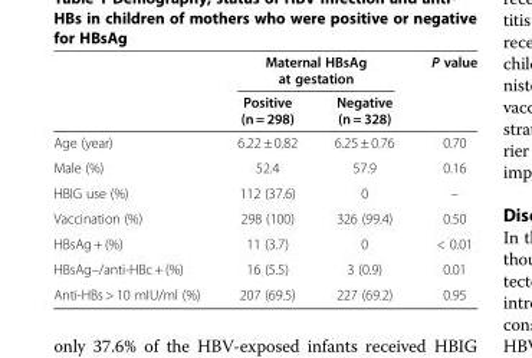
<table><thead><tr><td rowspan="2"></td><td colspan="2">Maternal HBsAg at gestation</td><td rowspan="2">P value</td></tr><tr><td>Positive (n = 298)</td><td>Negative (n = 328)</td></tr></thead><tbody><tr><td>Age (year)</td><td>6.22 ± 0.82</td><td>6.25 ± 0.76</td><td>0.70</td></tr><tr><td>Male (%)</td><td>52.4</td><td>57.9</td><td>0.16</td></tr><tr><td>HBIG use (%)</td><td>112 (37.6)</td><td>0</td><td>–</td></tr><tr><td>Vaccination (%)</td><td>298 (100)</td><td>326 (99.4)</td><td>0.50</td></tr><tr><td>HBsAg + (%)</td><td>11 (3.7)</td><td>0</td><td>&lt; 0.01</td></tr><tr><td>HBsAg–/anti-HBc + (%)</td><td>16 (5.5)</td><td>3 (0.9)</td><td>0.01</td></tr><tr><td>Anti-HBs &gt; 10 mIU/ml (%)</td><td>207 (69.5)</td><td>227 (69.2)</td><td>0.95</td></tr></tbody></table>